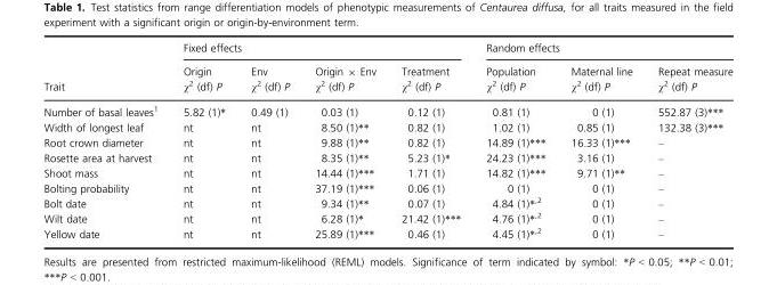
<table><thead><tr><td rowspan="3">Trait</td><td colspan="4">Fixed effects</td><td colspan="3">Random effects</td></tr><tr><td rowspan="2">Origin χ<sup>2</sup> (df) P</td><td rowspan="2">Env χ<sup>2</sup> (df) P</td><td rowspan="2">Origin × Env χ<sup>2</sup> (df) P</td><td rowspan="2">Treatment χ<sup>2</sup> (df) P</td><td rowspan="2">Population χ<sup>2</sup> (df) P</td><td rowspan="2">Maternal line χ<sup>2</sup> (df) P</td><td rowspan="2">Repeat measure χ<sup>2</sup> (df) P</td></tr><tr></tr></thead><tbody><tr><td>Number of basal leaves<sup>1</sup></td><td>5.82 (1)*</td><td>0.49 (1)</td><td>0.03 (1)</td><td>0.12 (1)</td><td>0.81 (1)</td><td>0 (1)</td><td>552.87 (3)***</td></tr><tr><td>Width of longest leaf</td><td>nt</td><td>nt</td><td>8.50 (1)**</td><td>0.82 (1)</td><td>1.02 (1)</td><td>0.85 (1)</td><td>132.38 (3)***</td></tr><tr><td>Root crown diameter</td><td>nt</td><td>nt</td><td>9.88 (1)**</td><td>0.82 (1)</td><td>14.89 (1)***</td><td>16.33 (1)***</td><td>–</td></tr><tr><td>Rosette area at harvest</td><td>nt</td><td>nt</td><td>8.35 (1)**</td><td>5.23 (1)*</td><td>24.23 (1)***</td><td>3.16 (1)</td><td>–</td></tr><tr><td>Shoot mass</td><td>nt</td><td>nt</td><td>14.44 (1)***</td><td>1.71 (1)</td><td>14.82 (1)***</td><td>9.71 (1)**</td><td>–</td></tr><tr><td>Bolting probability</td><td>nt</td><td>nt</td><td>37.19 (1)***</td><td>0.06 (1)</td><td>0 (1)</td><td>0 (1)</td><td>–</td></tr><tr><td>Bolt date</td><td>nt</td><td>nt</td><td>9.34 (1)**</td><td>0.07 (1)</td><td>4.84 (1)*,<sup>2</sup></td><td>0 (1)</td><td>–</td></tr><tr><td>Wilt date</td><td>nt</td><td>nt</td><td>6.28 (1)*</td><td>21.42 (1)***</td><td>4.76 (1)*,<sup>2</sup></td><td>0 (1)</td><td>–</td></tr><tr><td>Yellow date</td><td>nt</td><td>nt</td><td>25.89 (1)***</td><td>0.46 (1)</td><td>4.45 (1)*,<sup>2</sup></td><td>0 (1)</td><td>–</td></tr></tbody></table>